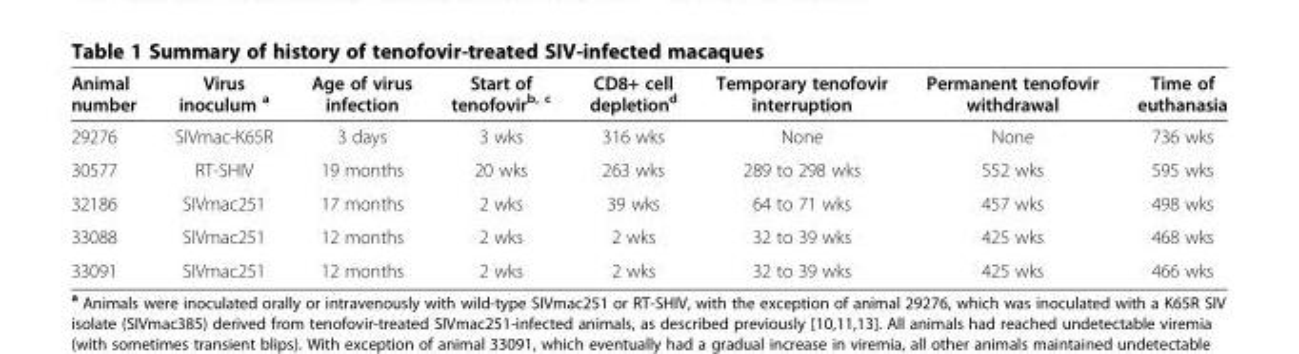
<table><thead><tr><td>Animal number</td><td>Virus inoculum <sup>a</sup></td><td>Age of virus infection</td><td>Start of tenofovir<sup>b, c</sup></td><td>CD8+ cell depletion<sup>d</sup></td><td>Temporary tenofovir interruption</td><td>Permanent tenofovir withdrawal</td><td>Time of euthanasia</td></tr></thead><tbody><tr><td>29276</td><td>SIVmac-K65R</td><td>3 days</td><td>3 wks</td><td>316 wks</td><td>None</td><td>None</td><td>736 wks</td></tr><tr><td>30577</td><td>RT-SHIV</td><td>19 months</td><td>20 wks</td><td>263 wks</td><td>289 to 298 wks</td><td>552 wks</td><td>595 wks</td></tr><tr><td>32186</td><td>SIVmac251</td><td>17 months</td><td>2 wks</td><td>39 wks</td><td>64 to 71 wks</td><td>457 wks</td><td>498 wks</td></tr><tr><td>33088</td><td>SIVmac251</td><td>12 months</td><td>2 wks</td><td>2 wks</td><td>32 to 39 wks</td><td>425 wks</td><td>468 wks</td></tr><tr><td>33091</td><td>SIVmac251</td><td>12 months</td><td>2 wks</td><td>2 wks</td><td>32 to 39 wks</td><td>425 wks</td><td>466 wks</td></tr></tbody></table>